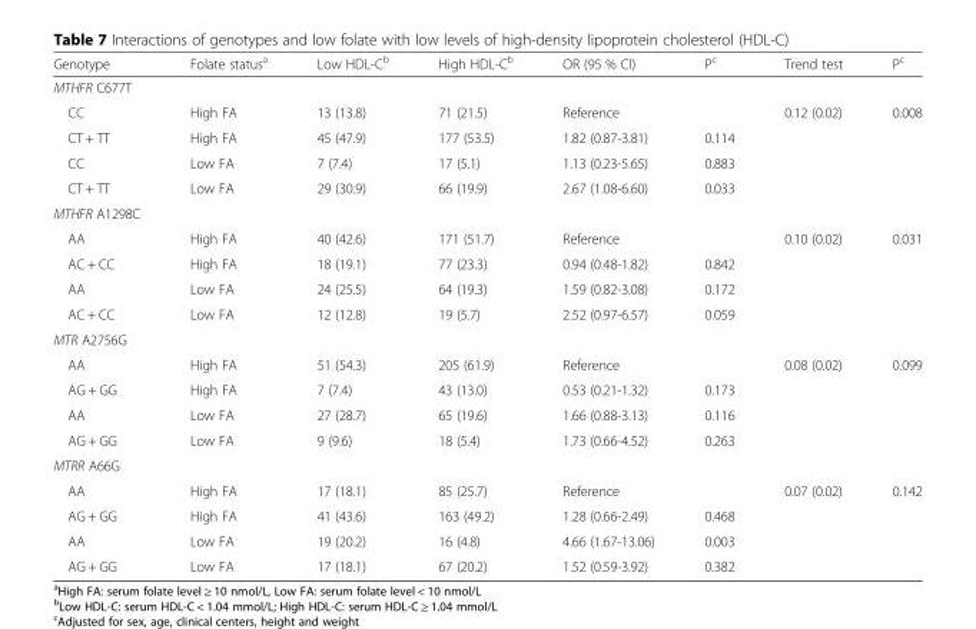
<table><thead><tr><td>Genotype</td><td>Folate status<sup>a</sup></td><td>Low HDL-C<sup>b</sup></td><td>High HDL-C<sup>b</sup></td><td>OR (95 % Cl)</td><td>P<sup>c</sup></td><td>Trend test</td><td>P<sup>c</sup></td></tr></thead><tbody><tr><td colspan="8">MTHFR C677T</td></tr><tr><td>CC</td><td>High FA</td><td>13 (13.8)</td><td>71 (21.5)</td><td>Reference</td><td></td><td rowspan="4">0.12 (0.02)</td><td rowspan="4">0.008</td></tr><tr><td>CT + TT</td><td>High FA</td><td>45 (47.9)</td><td>177 (53.5)</td><td>1.82 (0.87-3.81)</td><td>0.114</td></tr><tr><td>CC</td><td>Low FA</td><td>7 (7.4)</td><td>17 (5.1)</td><td>1.13 (0.23-5.65)</td><td>0.883</td></tr><tr><td>CT + TT</td><td>Low FA</td><td>29 (30.9)</td><td>66 (19.9)</td><td>2.67 (1.08-6.60)</td><td>0.033</td></tr><tr><td colspan="8">MTHFR A1298C</td></tr><tr><td>AA</td><td>High FA</td><td>40 (42.6)</td><td>171 (51.7)</td><td>Reference</td><td></td><td rowspan="4">0.10 (0.02)</td><td rowspan="4">0.031</td></tr><tr><td>AC + CC</td><td>High FA</td><td>18 (19.1)</td><td>77 (23.3)</td><td>0.94 (0.48-1.82)</td><td>0.842</td></tr><tr><td>AA</td><td>Low FA</td><td>24 (25.5)</td><td>64 (19.3)</td><td>1.59 (0.82-3.08)</td><td>0.172</td></tr><tr><td>AC + CC</td><td>Low FA</td><td>12 (12.8)</td><td>19 (5.7)</td><td>2.52 (0.97-6.57)</td><td>0.059</td></tr><tr><td colspan="8">MTR A2756G</td></tr><tr><td>AA</td><td>High FA</td><td>51 (54.3)</td><td>205 (61.9)</td><td>Reference</td><td></td><td rowspan="4">0.08 (0.02)</td><td rowspan="4">0.099</td></tr><tr><td>AG + GG</td><td>High FA</td><td>7 (7.4)</td><td>43 (13.0)</td><td>0.53 (0.21-1.32)</td><td>0.173</td></tr><tr><td>AA</td><td>Low FA</td><td>27 (28.7)</td><td>65 (19.6)</td><td>1.66 (0.88-3.13)</td><td>0.116</td></tr><tr><td>AG + GG</td><td>Low FA</td><td>9 (9.6)</td><td>18 (5.4)</td><td>1.73 (0.66-4.52)</td><td>0.263</td></tr><tr><td colspan="8">MTRR A66G</td></tr><tr><td>AA</td><td>High FA</td><td>17 (18.1)</td><td>85 (25.7)</td><td>Reference</td><td></td><td rowspan="4">0.07 (0.02)</td><td rowspan="4">0.142</td></tr><tr><td>AG + GG</td><td>High FA</td><td>41 (43.6)</td><td>163 (49.2)</td><td>1.28 (0.66-2.49)</td><td>0.468</td></tr><tr><td>AA</td><td>Low FA</td><td>19 (20.2)</td><td>16 (4.8)</td><td>4.66 (1.67-13.06)</td><td>0.003</td></tr><tr><td>AG + GG</td><td>Low FA</td><td>17 (18.1)</td><td>67 (20.2)</td><td>1.52 (0.59-3.92)</td><td>0.382</td></tr></tbody></table>